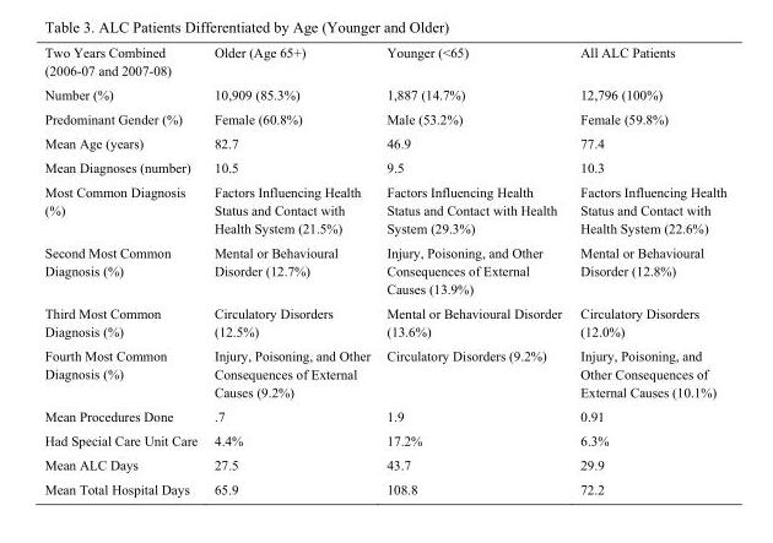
<table><thead><tr><td>Two Years Combined (2006-07 and 2007-08)</td><td>Older (Age 65+)</td><td>Younger (&lt;65)</td><td>All ALC Patients</td></tr></thead><tbody><tr><td>Number (%)</td><td>10,909 (85.3%)</td><td>1,887 (14.7%)</td><td>12,796 (100%)</td></tr><tr><td>Predominant Gender (%)</td><td>Female (60.8%)</td><td>Male (53.2%)</td><td>Female (59.8%)</td></tr><tr><td>Mean Age (years)</td><td>82.7</td><td>46.9</td><td>77.4</td></tr><tr><td>Mean Diagnoses (number)</td><td>10.5</td><td>9.5</td><td>10.3</td></tr><tr><td>Most Common Diagnosis (%)</td><td>Factors Influencing Health Status and Contact with Health System (21.5%)</td><td>Factors Influencing Health Status and Contact with Health System (29.3%)</td><td>Factors Influencing Health Status and Contact with Health System (22.6%)</td></tr><tr><td>Second Most Common Diagnosis (%)</td><td>Mental or Behavioural Disorder (12.7%)</td><td>Injury, Poisoning, and Other Consequences of External Causes (13.9%)</td><td>Mental or Behavioural Disorder (12.8%)</td></tr><tr><td>Third Most Common Diagnosis (%)</td><td>Circulatory Disorders (12.5%)</td><td>Mental or Behavioural Disorder (13.6%)</td><td>Circulatory Disorders (12.0%)</td></tr><tr><td>Fourth Most Common Diagnosis (%)</td><td>Injury, Poisoning, and Other Consequences of External Causes (9.2%)</td><td>Circulatory Disorders (9.2%)</td><td>Injury, Poisoning, and Other Consequences of External Causes (10.1%)</td></tr><tr><td>Mean Procedures Done</td><td>.7</td><td>1.9</td><td>0.91</td></tr><tr><td>Had Special Care Unit Care</td><td>4.4%</td><td>17.2%</td><td>6.3%</td></tr><tr><td>Mean ALC Days</td><td>27.5</td><td>43.7</td><td>29.9</td></tr><tr><td>Mean Total Hospital Days</td><td>65.9</td><td>108.8</td><td>72.2</td></tr></tbody></table>